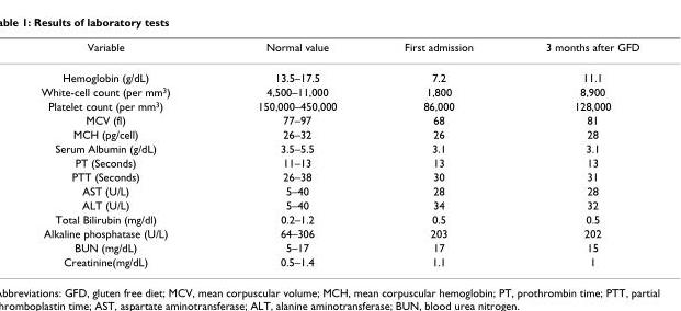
<table><thead><tr><td>Variable</td><td>Normal value</td><td>First admission</td><td>3 months after GFD</td></tr></thead><tbody><tr><td>Hemoglobin (g/dL)</td><td>13.5–17.5</td><td>7.2</td><td>11.1</td></tr><tr><td>White-cell count (per mm<sup>3</sup>)</td><td>4,500–11,000</td><td>1,800</td><td>8,900</td></tr><tr><td>Platelet count (per mm<sup>3</sup>)</td><td>150,000–450,000</td><td>86,000</td><td>128,000</td></tr><tr><td>MCV (fl)</td><td>77–97</td><td>68</td><td>81</td></tr><tr><td>MCH (pg/cell)</td><td>26–32</td><td>26</td><td>28</td></tr><tr><td>Serum Albumin (g/dL)</td><td>3.5–5.5</td><td>3.1</td><td>3.1</td></tr><tr><td>PT (Seconds)</td><td>11–13</td><td>13</td><td>13</td></tr><tr><td>PTT (Seconds)</td><td>26–38</td><td>30</td><td>31</td></tr><tr><td>AST (U/L)</td><td>5–40</td><td>28</td><td>28</td></tr><tr><td>ALT (U/L)</td><td>5–40</td><td>34</td><td>32</td></tr><tr><td>Total Bilirubin (mg/dl)</td><td>0.2–1.2</td><td>0.5</td><td>0.5</td></tr><tr><td>Alkaline phosphatase (U/L)</td><td>64–306</td><td>203</td><td>202</td></tr><tr><td>BUN (mg/dL)</td><td>5–17</td><td>17</td><td>15</td></tr><tr><td>Creatinine(mg/dL)</td><td>0.5–1.4</td><td>1.1</td><td>1</td></tr></tbody></table>